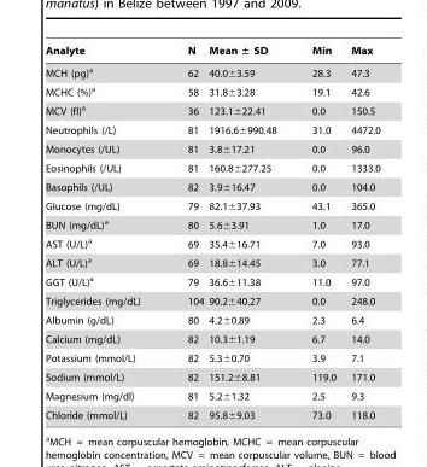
<table><thead><tr><td>Analyte</td><td>N</td><td>Mean ± SD</td><td>Min</td><td>Max</td></tr></thead><tbody><tr><td>MCH (pg)<sup>a</sup></td><td>62</td><td>40.0±3.59</td><td>28.3</td><td>47.3</td></tr><tr><td>MCHC (%)<sup>a</sup></td><td>58</td><td>31.8±3.28</td><td>19.1</td><td>42.6</td></tr><tr><td>MCV (fl)<sup>a</sup></td><td>36</td><td>123.1±22.41</td><td>0.0</td><td>150.5</td></tr><tr><td>Neutrophils (/L)</td><td>81</td><td>1916.6±990.48</td><td>31.0</td><td>4472.0</td></tr><tr><td>Monocytes (/UL)</td><td>81</td><td>3.8±17.21</td><td>0.0</td><td>96.0</td></tr><tr><td>Eosinophils (/UL)</td><td>81</td><td>160.8±277.25</td><td>0.0</td><td>1333.0</td></tr><tr><td>Basophils (/UL)</td><td>82</td><td>3.9±16.47</td><td>0.0</td><td>104.0</td></tr><tr><td>Glucose (mg/dL)</td><td>79</td><td>82.1±37.93</td><td>43.1</td><td>365.0</td></tr><tr><td>BUN (mg/dL)<sup>a</sup></td><td>80</td><td>5.6±3.91</td><td>1.0</td><td>17.0</td></tr><tr><td>AST (U/L)<sup>a</sup></td><td>69</td><td>35.4±16.71</td><td>7.0</td><td>93.0</td></tr><tr><td>ALT (U/L)<sup>a</sup></td><td>69</td><td>18.8±14.45</td><td>3.0</td><td>77.1</td></tr><tr><td>GGT (U/L)<sup>a</sup></td><td>79</td><td>36.6±11.38</td><td>11.0</td><td>97.0</td></tr><tr><td>Triglycerides (mg/dL)</td><td>104</td><td>90.2±40.27</td><td>0.0</td><td>248.0</td></tr><tr><td>Albumin (g/dL)</td><td>80</td><td>4.2±0.89</td><td>2.3</td><td>6.4</td></tr><tr><td>Calcium (mg/dL)</td><td>82</td><td>10.3±1.19</td><td>6.7</td><td>14.0</td></tr><tr><td>Potassium (mmol/L)</td><td>82</td><td>5.3±0.70</td><td>3.9</td><td>7.1</td></tr><tr><td>Sodium (mmol/L)</td><td>82</td><td>151.2±8.81</td><td>119.0</td><td>171.0</td></tr><tr><td>Magnesium (mg/dl)</td><td>81</td><td>5.2±1.32</td><td>2.5</td><td>9.3</td></tr><tr><td>Chloride (mmol/L)</td><td>82</td><td>95.8±9.03</td><td>73.0</td><td>118.0</td></tr></tbody></table>